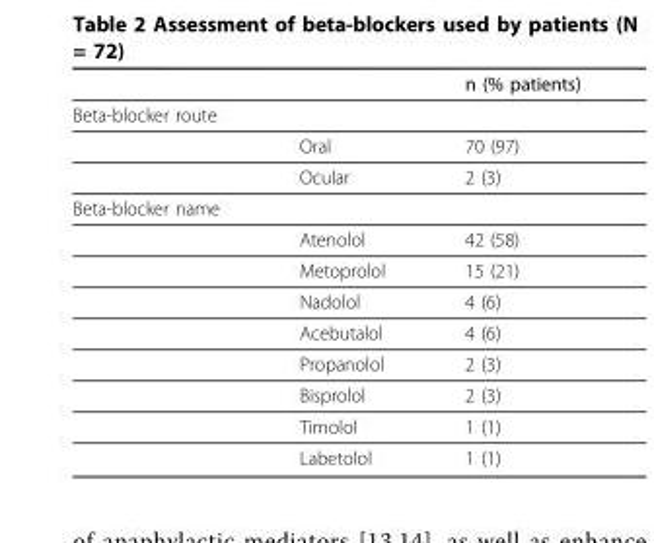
<table><thead><tr><td></td><td></td><td>n (% patients)</td></tr></thead><tbody><tr><td colspan="3">Beta-blocker route</td></tr><tr><td></td><td>Oral</td><td>70 (97)</td></tr><tr><td></td><td>Ocular</td><td>2 (3)</td></tr><tr><td colspan="3">Beta-blocker name</td></tr><tr><td></td><td>Atenolol</td><td>42 (58)</td></tr><tr><td></td><td>Metoprolol</td><td>15 (21)</td></tr><tr><td></td><td>Nadolol</td><td>4 (6)</td></tr><tr><td></td><td>Acebutalol</td><td>4 (6)</td></tr><tr><td></td><td>Propanolol</td><td>2 (3)</td></tr><tr><td></td><td>Bisprolol</td><td>2 (3)</td></tr><tr><td></td><td>Timolol</td><td>1 (1)</td></tr><tr><td></td><td>Labetolol</td><td>1 (1)</td></tr></tbody></table>